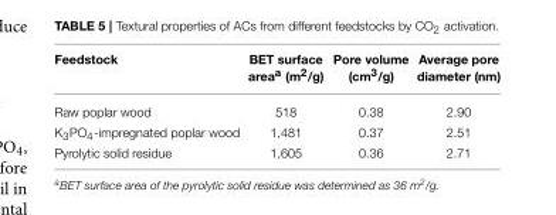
<table><thead><tr><td>Feedstock</td><td>BET surface area<sup>a</sup> (m<sup>2</sup>/g)</td><td>Pore volume (cm<sup>3</sup>/g)</td><td>Average pore diameter (nm)</td></tr></thead><tbody><tr><td>Raw poplar wood</td><td>518</td><td>0.38</td><td>2.90</td></tr><tr><td>K<sub>3</sub>PO<sub>4</sub>-impregnated poplar wood</td><td>1,481</td><td>0.37</td><td>2.51</td></tr><tr><td>Pyrolytic solid residue</td><td>1,605</td><td>0.36</td><td>2.71</td></tr></tbody></table>